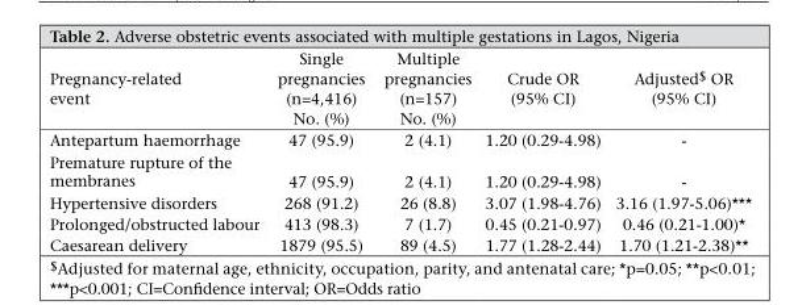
<table><thead><tr><td>Pregnancy-related event</td><td>Single pregnancies (n=4,416) No. (%)</td><td>Multiple pregnancies (n=157) No. (%)</td><td>Crude OR (95% CI)</td><td>Adjusted$ OR (95% CI)</td></tr></thead><tbody><tr><td>Antepartum haemorrhage</td><td>47 (95.9)</td><td>2 (4.1)</td><td>1.20 (0.29-4.98)</td><td>-</td></tr><tr><td>Premature rupture of the membranes</td><td>47 (95.9)</td><td>2 (4.1)</td><td>1.20 (0.29-4.98)</td><td>-</td></tr><tr><td>Hypertensive disorders</td><td>268 (91.2)</td><td>26 (8.8)</td><td>3.07 (1.98-4.76)</td><td>3.16 (1.97-5.06)***</td></tr><tr><td>Prolonged/obstructed labour</td><td>413 (98.3)</td><td>7 (1.7)</td><td>0.45 (0.21-0.97)</td><td>0.46 (0.21-1.00)*</td></tr><tr><td>Caesarean delivery</td><td>1879 (95.5)</td><td>89 (4.5)</td><td>1.77 (1.28-2.44)</td><td>1.70 (1.21-2.38)**</td></tr></tbody></table>